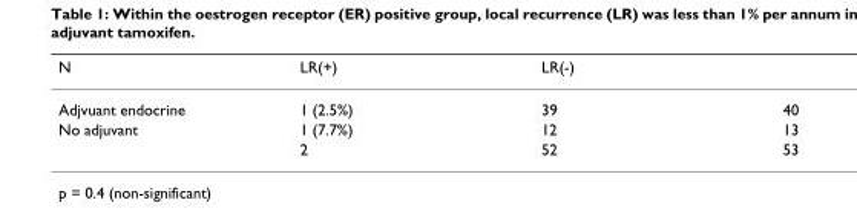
<table><thead><tr><td>N</td><td>LR(+)</td><td>LR(-)</td><td></td></tr></thead><tbody><tr><td>Adjvuant endocrine</td><td>1 (2.5%)</td><td>39</td><td>40</td></tr><tr><td rowspan="2">No adjuvant</td><td>1 (7.7%)</td><td>12</td><td>13</td></tr><tr><td>2</td><td>52</td><td>53</td></tr></tbody></table>